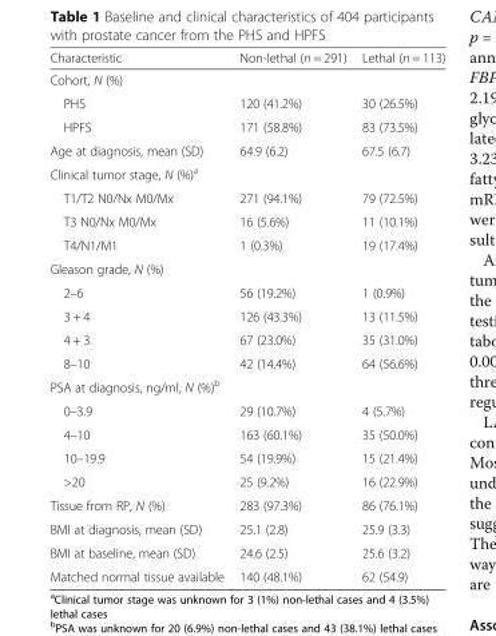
<table><thead><tr><td>Characteristic</td><td>Non-lethal (n = 291)</td><td>Lethal (n = 113)</td></tr></thead><tbody><tr><td colspan="3">Cohort, N (%)</td></tr><tr><td>PHS</td><td>120 (41.2%)</td><td>30 (26.5%)</td></tr><tr><td>HPFS</td><td>171 (58.8%)</td><td>83 (73.5%)</td></tr><tr><td>Age at diagnosis, mean (SD)</td><td>64.9 (6.2)</td><td>67.5 (6.7)</td></tr><tr><td colspan="3">Clinical tumor stage, N (%)<sup>a</sup></td></tr><tr><td>T1/T2 N0/Nx M0/Mx</td><td>271 (94.1%)</td><td>79 (72.5%)</td></tr><tr><td>T3 N0/Nx M0/Mx</td><td>16 (5.6%)</td><td>11 (10.1%)</td></tr><tr><td>T4/N1/M1</td><td>1 (0.3%)</td><td>19 (17.4%)</td></tr><tr><td colspan="3">Gleason grade, N (%)</td></tr><tr><td>2–6</td><td>56 (19.2%)</td><td>1 (0.9%)</td></tr><tr><td>3 + 4</td><td>126 (43.3%)</td><td>13 (11.5%)</td></tr><tr><td>4 + 3</td><td>67 (23.0%)</td><td>35 (31.0%)</td></tr><tr><td>8–10</td><td>42 (14.4%)</td><td>64 (56.6%)</td></tr><tr><td colspan="3">PSA at diagnosis, ng/ml, N (%)<sup>b</sup></td></tr><tr><td>0–3.9</td><td>29 (10.7%)</td><td>4 (5.7%)</td></tr><tr><td>4–10</td><td>163 (60.1%)</td><td>35 (50.0%)</td></tr><tr><td>10–19.9</td><td>54 (19.9%)</td><td>15 (21.4%)</td></tr><tr><td>&gt;20</td><td>25 (9.2%)</td><td>16 (22.9%)</td></tr><tr><td>Tissue from RP, N (%)</td><td>283 (97.3%)</td><td>86 (76.1%)</td></tr><tr><td>BMI at diagnosis, mean (SD)</td><td>25.1 (2.8)</td><td>25.9 (3.3)</td></tr><tr><td>BMI at baseline, mean (SD)</td><td>24.6 (2.5)</td><td>25.6 (3.2)</td></tr><tr><td>Matched normal tissue available</td><td>140 (48.1%)</td><td>62 (54.9)</td></tr></tbody></table>